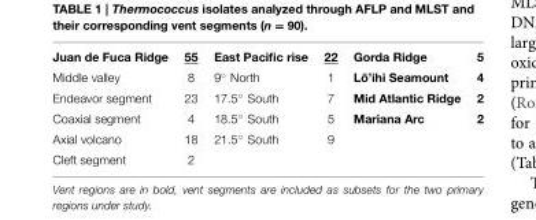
<table><tbody><tr><td>Juan de Fuca Ridge</td><td>55</td><td>East Pacific rise</td><td>22</td><td>Gorda Ridge</td><td>5</td></tr><tr><td>Middle valley</td><td>8</td><td>9◦ North</td><td>1</td><td>L ¯o’ihi Seamount</td><td>4</td></tr><tr><td>Endeavor segment</td><td>23</td><td>17.5◦ South</td><td>7</td><td>Mid Atlantic Ridge</td><td>2</td></tr><tr><td>Coaxial segment</td><td>4</td><td>18.5◦ South</td><td>5</td><td>Mariana Arc</td><td>2</td></tr><tr><td>Axial volcano</td><td>18</td><td>21.5◦ South</td><td>9</td><td></td><td></td></tr><tr><td>Cleft segment</td><td>2</td><td></td><td></td><td></td><td></td></tr></tbody></table>